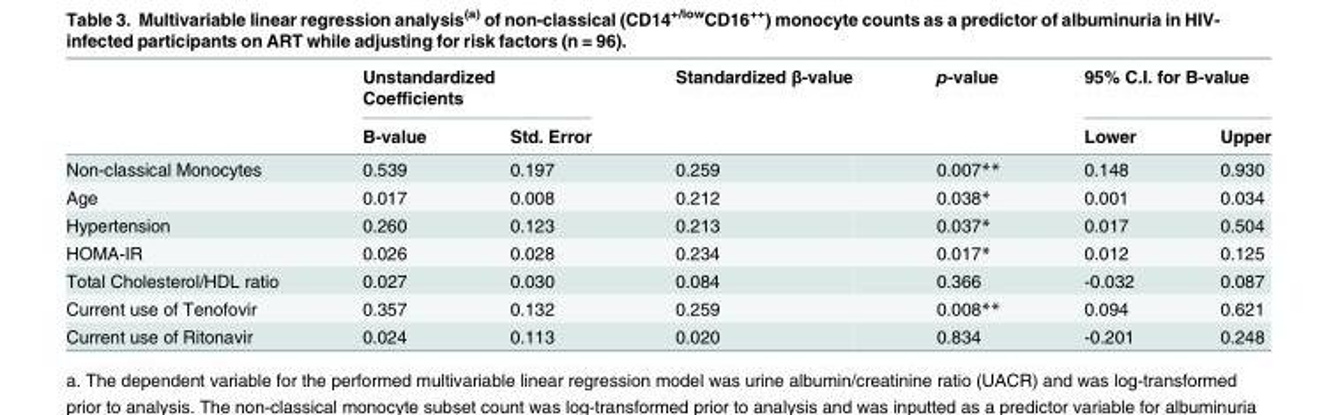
<table><thead><tr><td rowspan="2"></td><td colspan="2">Unstandardized Coefficients</td><td rowspan="2">Standardized β-value</td><td rowspan="2">p-value</td><td colspan="2">95% C.I. for B-value</td></tr><tr><td>B-value</td><td>Std. Error</td><td>Lower</td><td>Upper</td></tr></thead><tbody><tr><td>Non-classical Monocytes</td><td>0.539</td><td>0.197</td><td>0.259</td><td>0.007**</td><td>0.148</td><td>0.930</td></tr><tr><td>Age</td><td>0.017</td><td>0.008</td><td>0.212</td><td>0.038*</td><td>0.001</td><td>0.034</td></tr><tr><td>Hypertension</td><td>0.260</td><td>0.123</td><td>0.213</td><td>0.037*</td><td>0.017</td><td>0.504</td></tr><tr><td>HOMA-IR</td><td>0.026</td><td>0.028</td><td>0.234</td><td>0.017*</td><td>0.012</td><td>0.125</td></tr><tr><td>Total Cholesterol/HDL ratio</td><td>0.027</td><td>0.030</td><td>0.084</td><td>0.366</td><td>-0.032</td><td>0.087</td></tr><tr><td>Current use of Tenofovir</td><td>0.357</td><td>0.132</td><td>0.259</td><td>0.008**</td><td>0.094</td><td>0.621</td></tr><tr><td>Current use of Ritonavir</td><td>0.024</td><td>0.113</td><td>0.020</td><td>0.834</td><td>-0.201</td><td>0.248</td></tr></tbody></table>